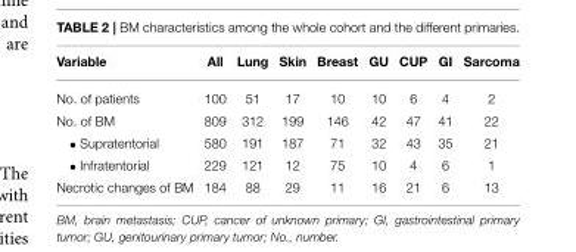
<table><thead><tr><td>Variable</td><td>All</td><td>Lung</td><td>Skin</td><td>Breast</td><td>GU</td><td>CUP</td><td>GI</td><td>Sarcoma</td></tr></thead><tbody><tr><td>No. of patients</td><td>100</td><td>51</td><td>17</td><td>10</td><td>10</td><td>6</td><td>4</td><td>2</td></tr><tr><td>No. of BM</td><td>809</td><td>312</td><td>199</td><td>146</td><td>42</td><td>47</td><td>41</td><td>22</td></tr><tr><td>• Supratentorial</td><td>580</td><td>191</td><td>187</td><td>71</td><td>32</td><td>43</td><td>35</td><td>21</td></tr><tr><td>• Infratentorial</td><td>229</td><td>121</td><td>12</td><td>75</td><td>10</td><td>4</td><td>6</td><td>1</td></tr><tr><td>Necrotic changes of BM</td><td>184</td><td>88</td><td>29</td><td>11</td><td>16</td><td>21</td><td>6</td><td>13</td></tr></tbody></table>